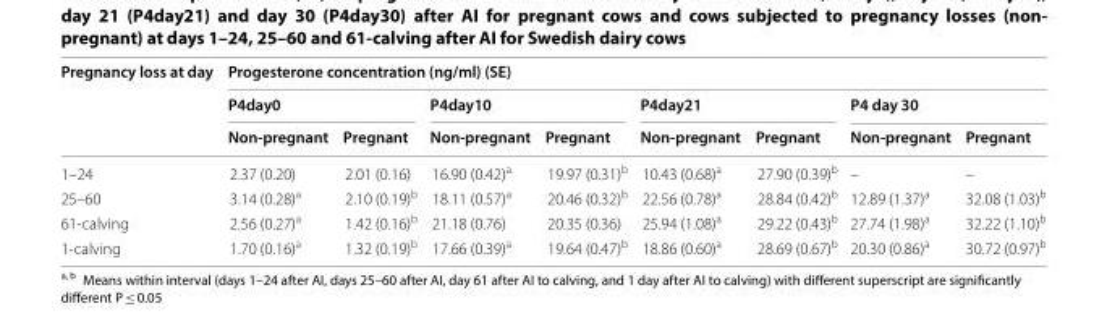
<table><thead><tr><td rowspan="3">Pregnancy loss at day</td><td colspan="8">Progesterone concentration (ng/ml) (SE)</td></tr><tr><td colspan="2">P4day0</td><td colspan="2">P4day10</td><td colspan="2">P4day21</td><td colspan="2">P4 day 30</td></tr><tr><td>Non-pregnant</td><td>Pregnant</td><td>Non-pregnant</td><td>Pregnant</td><td>Non-pregnant</td><td>Pregnant</td><td>Non-pregnant</td><td>Pregnant</td></tr></thead><tbody><tr><td>1–24</td><td>2.37 (0.20)</td><td>2.01 (0.16)</td><td>16.90 (0.42)<sup>a</sup></td><td>19.97 (0.31)<sup>b</sup></td><td>10.43 (0.68)<sup>a</sup></td><td>27.90 (0.39)<sup>b</sup></td><td>–</td><td>–</td></tr><tr><td>25–60</td><td>3.14 (0.28)<sup>a</sup></td><td>2.10 (0.19)<sup>b</sup></td><td>18.11 (0.57)<sup>a</sup></td><td>20.46 (0.32)<sup>b</sup></td><td>22.56 (0.78)<sup>a</sup></td><td>28.84 (0.42)<sup>b</sup></td><td>12.89 (1.37)<sup>a</sup></td><td>32.08 (1.03)<sup>b</sup></td></tr><tr><td>61-calving</td><td>2.56 (0.27)<sup>a</sup></td><td>1.42 (0.16)<sup>b</sup></td><td>21.18 (0.76)</td><td>20.35 (0.36)</td><td>25.94 (1.08)<sup>a</sup></td><td>29.22 (0.43)<sup>b</sup></td><td>27.74 (1.98)<sup>a</sup></td><td>32.22 (1.10)<sup>b</sup></td></tr><tr><td>1-calving</td><td>1.70 (0.16)<sup>a</sup></td><td>1.32 (0.19)<sup>b</sup></td><td>17.66 (0.39)<sup>a</sup></td><td>19.64 (0.47)<sup>b</sup></td><td>18.86 (0.60)<sup>a</sup></td><td>28.69 (0.67)<sup>b</sup></td><td>20.30 (0.86)<sup>a</sup></td><td>30.72 (0.97)<sup>b</sup></td></tr></tbody></table>